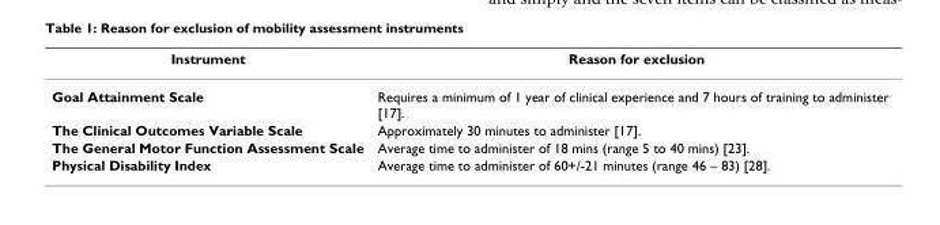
<table><thead><tr><td>Instrument</td><td>Reason for exclusion</td></tr></thead><tbody><tr><td>Goal Attainment Scale</td><td>Requires a minimum of 1 year of clinical experience and 7 hours of training to administer [17].</td></tr><tr><td>The Clinical Outcomes Variable Scale</td><td>Approximately 30 minutes to administer [17].</td></tr><tr><td>The General Motor Function Assessment Scale</td><td>Average time to administer of 18 mins (range 5 to 40 mins) [23].</td></tr><tr><td>Physical Disability Index</td><td>Average time to administer of 60+/-21 minutes (range 46 – 83) [28].</td></tr></tbody></table>